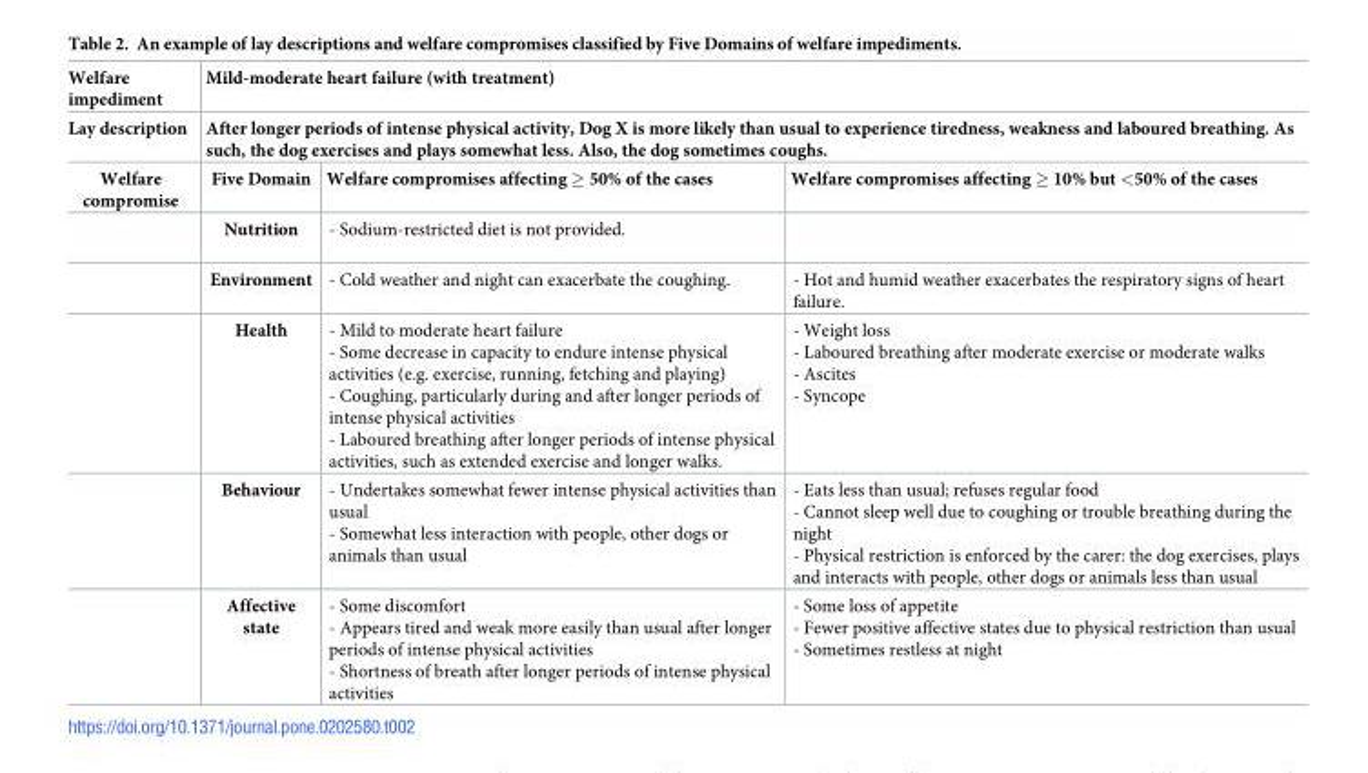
<table><thead><tr><td rowspan="3">Welfare impediment Lay description Welfare compromise</td><td rowspan="2" colspan="3">Mild-moderate heart failure (with treatment) After longer periods of intense physical activity, Dog X is more likely than usual to experience tiredness, weakness and laboured breathing. As such, the dog exercises and plays somewhat less. Also, the dog sometimes coughs.</td></tr><tr></tr><tr><td>Five Domain</td><td>Welfare compromises affecting ≥ 50% of the cases</td><td>Welfare compromises affecting ≥ 10% but &lt;50% of the cases</td></tr></thead><tbody><tr><td></td><td>Nutrition</td><td>- Sodium-restricted diet is not provided.</td><td></td></tr><tr><td></td><td>Environment</td><td>- Cold weather and night can exacerbate the coughing.</td><td>- Hot and humid weather exacerbates the respiratory signs of heart failure.</td></tr><tr><td></td><td>Health</td><td>- Mild to moderate heart failure - Some decrease in capacity to endure intense physical activities (e.g. exercise, running, fetching and playing) - Coughing, particularly during and after longer periods of intense physical activities - Laboured breathing after longer periods of intense physical activities, such as extended exercise and longer walks.</td><td>- Weight loss - Laboured breathing after moderate exercise or moderate walks - Ascites - Syncope</td></tr><tr><td></td><td>Behaviour</td><td>- Undertakes somewhat fewer intense physical activities than usual - Somewhat less interaction with people, other dogs or animals than usual</td><td>- Eats less than usual; refuses regular food - Cannot sleep well due to coughing or trouble breathing during the night - Physical restriction is enforced by the carer: the dog exercises, plays and interacts with people, other dogs or animals less than usual</td></tr><tr><td></td><td>Affective state</td><td>- Some discomfort - Appears tired and weak more easily than usual after longer periods of intense physical activities - Shortness of breath after longer periods of intense physical activities</td><td>- Some loss of appetite - Fewer positive affective states due to physical restriction than usual - Sometimes restless at night</td></tr></tbody></table>